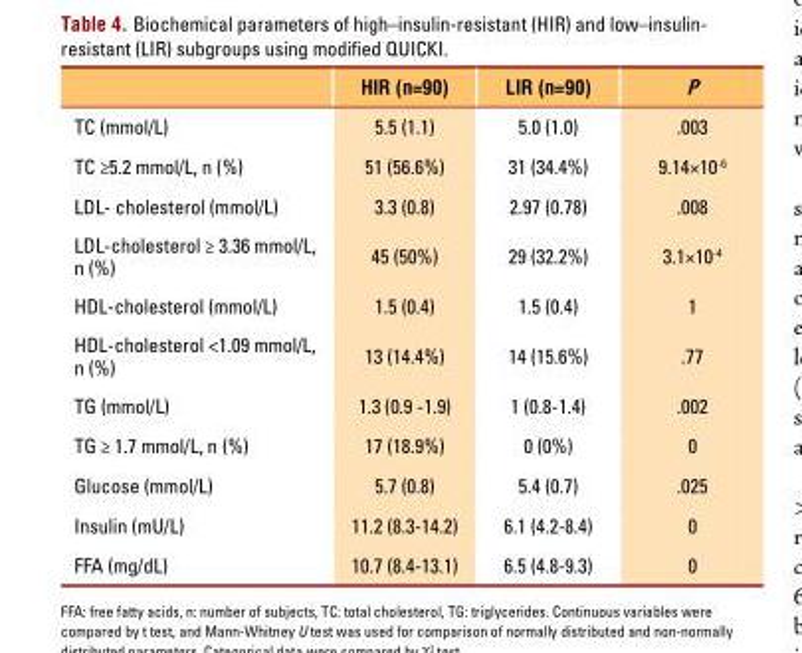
<table><thead><tr><td></td><td>HIR (n=90)</td><td>LIR (n=90)</td><td>P</td></tr></thead><tbody><tr><td>TC (mmol/L)</td><td>5.5 (1.1)</td><td>5.0 (1.0)</td><td>.003</td></tr><tr><td>TC ≥5.2 mmol/L, n (%)</td><td>51 (56.6%)</td><td>31 (34.4%)</td><td>9.14×10<sup>-6</sup></td></tr><tr><td>LDL- cholesterol (mmol/L)</td><td>3.3 (0.8)</td><td>2.97 (0.78)</td><td>.008</td></tr><tr><td>LDL-cholesterol ≥ 3.36 mmol/L, n (%)</td><td>45 (50%)</td><td>29 (32.2%)</td><td>3.1×10<sup>-4</sup></td></tr><tr><td>HDL-cholesterol (mmol/L)</td><td>1.5 (0.4)</td><td>1.5 (0.4)</td><td>1</td></tr><tr><td>HDL-cholesterol &lt;1.09 mmol/L, n (%)</td><td>13 (14.4%)</td><td>14 (15.6%)</td><td>.77</td></tr><tr><td>TG (mmol/L)</td><td>1.3 (0.9 -1.9)</td><td>1 (0.8-1.4)</td><td>.002</td></tr><tr><td>TG ≥ 1.7 mmol/L, n (%)</td><td>17 (18.9%)</td><td>0 (0%)</td><td>0</td></tr><tr><td>Glucose (mmol/L)</td><td>5.7 (0.8)</td><td>5.4 (0.7)</td><td>.025</td></tr><tr><td>Insulin (mU/L)</td><td>11.2 (8.3-14.2)</td><td>6.1 (4.2-8.4)</td><td>0</td></tr><tr><td>FFA (mg/dL)</td><td>10.7 (8.4-13.1)</td><td>6.5 (4.8-9.3)</td><td>0</td></tr></tbody></table>